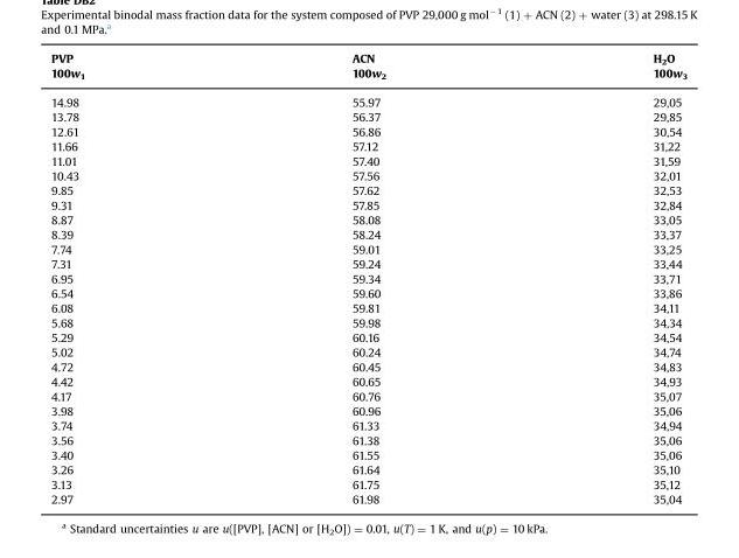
<table><thead><tr><td rowspan="2">PVP 100w<sub>1</sub></td><td rowspan="2">ACN 100w<sub>2</sub></td><td rowspan="2">H<sub>2</sub>O 100w<sub>3</sub></td></tr><tr></tr></thead><tbody><tr><td>14.98</td><td>55.97</td><td>29,05</td></tr><tr><td>13.78</td><td>56.37</td><td>29,85</td></tr><tr><td>12.61</td><td>56.86</td><td>30,54</td></tr><tr><td>11.66</td><td>57.12</td><td>31,22</td></tr><tr><td>11.01</td><td>57.40</td><td>31,59</td></tr><tr><td>10.43</td><td>57.56</td><td>32,01</td></tr><tr><td>9.85</td><td>57.62</td><td>32,53</td></tr><tr><td>9.31</td><td>57.85</td><td>32,84</td></tr><tr><td>8.87</td><td>58.08</td><td>33,05</td></tr><tr><td>8.39</td><td>58.24</td><td>33,37</td></tr><tr><td>7.74</td><td>59.01</td><td>33,25</td></tr><tr><td>7.31</td><td>59.24</td><td>33,44</td></tr><tr><td>6.95</td><td>59.34</td><td>33,71</td></tr><tr><td>6.54</td><td>59.60</td><td>33,86</td></tr><tr><td>6.08</td><td>59.81</td><td>34,11</td></tr><tr><td>5.68</td><td>59.98</td><td>34,34</td></tr><tr><td>5.29</td><td>60.16</td><td>34,54</td></tr><tr><td>5.02</td><td>60.24</td><td>34,74</td></tr><tr><td>4.72</td><td>60.45</td><td>34,83</td></tr><tr><td>4.42</td><td>60.65</td><td>34,93</td></tr><tr><td>4.17</td><td>60.76</td><td>35,07</td></tr><tr><td>3.98</td><td>60.96</td><td>35,06</td></tr><tr><td>3.74</td><td>61.33</td><td>34,94</td></tr><tr><td>3.56</td><td>61.38</td><td>35,06</td></tr><tr><td>3.40</td><td>61.55</td><td>35,06</td></tr><tr><td>3.26</td><td>61.64</td><td>35,10</td></tr><tr><td>3.13</td><td>61.75</td><td>35,12</td></tr><tr><td>2.97</td><td>61.98</td><td>35,04</td></tr></tbody></table>